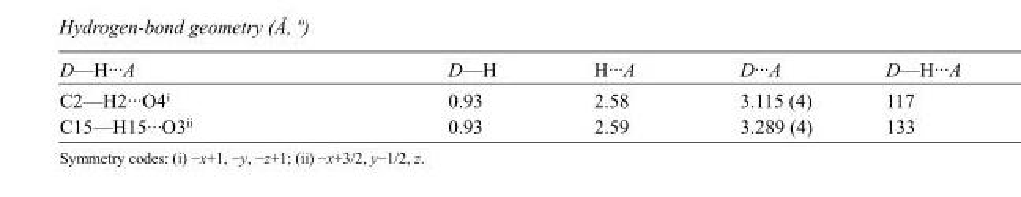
<table><tbody><tr><td>D—H···A</td><td>D—H</td><td>H···A</td><td>D···A</td><td>D—H···A</td></tr><tr><td>C2—H2···O4<sup>i</sup></td><td>0.93</td><td>2.58</td><td>3.115 (4)</td><td>117</td></tr><tr><td>C15—H15···O3<sup>ii</sup></td><td>0.93</td><td>2.59</td><td>3.289 (4)</td><td>133</td></tr></tbody></table>